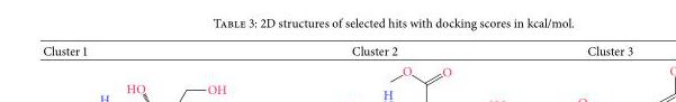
<table><thead><tr><td>Cluster 1</td><td>Cluster 2</td><td>Cluster 3</td></tr></thead><tbody></tbody></table>